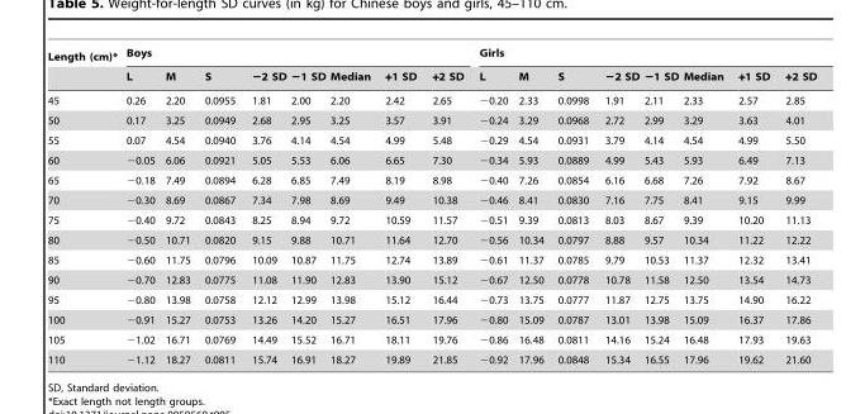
<table><thead><tr><td rowspan="2">Length (cm)*</td><td colspan="8">Boys</td><td colspan="8">Girls</td></tr><tr><td>L</td><td>M</td><td>S</td><td>−2 SD</td><td>−1 SD</td><td>Median</td><td>+1 SD</td><td>+2 SD</td><td>L</td><td>M</td><td>S</td><td>−2 SD</td><td>−1 SD</td><td>Median</td><td>+1 SD</td><td>+2 SD</td></tr></thead><tbody><tr><td>45</td><td>0.26</td><td>2.20</td><td>0.0955</td><td>1.81</td><td>2.00</td><td>2.20</td><td>2.42</td><td>2.65</td><td>−0.20</td><td>2.33</td><td>0.0998</td><td>1.91</td><td>2.11</td><td>2.33</td><td>2.57</td><td>2.85</td></tr><tr><td>50</td><td>0.17</td><td>3.25</td><td>0.0949</td><td>2.68</td><td>2.95</td><td>3.25</td><td>3.57</td><td>3.91</td><td>−0.24</td><td>3.29</td><td>0.0968</td><td>2.72</td><td>2.99</td><td>3.29</td><td>3.63</td><td>4.01</td></tr><tr><td>55</td><td>0.07</td><td>4.54</td><td>0.0940</td><td>3.76</td><td>4.14</td><td>4.54</td><td>4.99</td><td>5.48</td><td>−0.29</td><td>4.54</td><td>0.0931</td><td>3.79</td><td>4.14</td><td>4.54</td><td>4.99</td><td>5.50</td></tr><tr><td>60</td><td>−0.05</td><td>6.06</td><td>0.0921</td><td>5.05</td><td>5.53</td><td>6.06</td><td>6.65</td><td>7.30</td><td>−0.34</td><td>5.93</td><td>0.0889</td><td>4.99</td><td>5.43</td><td>5.93</td><td>6.49</td><td>7.13</td></tr><tr><td>65</td><td>−0.18</td><td>7.49</td><td>0.0894</td><td>6.28</td><td>6.85</td><td>7.49</td><td>8.19</td><td>8.98</td><td>−0.40</td><td>7.26</td><td>0.0854</td><td>6.16</td><td>6.68</td><td>7.26</td><td>7.92</td><td>8.67</td></tr><tr><td>70</td><td>−0.30</td><td>8.69</td><td>0.0867</td><td>7.34</td><td>7.98</td><td>8.69</td><td>9.49</td><td>10.38</td><td>−0.46</td><td>8.41</td><td>0.0830</td><td>7.16</td><td>7.75</td><td>8.41</td><td>9.15</td><td>9.99</td></tr><tr><td>75</td><td>−0.40</td><td>9.72</td><td>0.0843</td><td>8.25</td><td>8.94</td><td>9.72</td><td>10.59</td><td>11.57</td><td>−0.51</td><td>9.39</td><td>0.0813</td><td>8.03</td><td>8.67</td><td>9.39</td><td>10.20</td><td>11.13</td></tr><tr><td>80</td><td>−0.50</td><td>10.71</td><td>0.0820</td><td>9.15</td><td>9.88</td><td>10.71</td><td>11.64</td><td>12.70</td><td>−0.56</td><td>10.34</td><td>0.0797</td><td>8.88</td><td>9.57</td><td>10.34</td><td>11.22</td><td>12.22</td></tr><tr><td>85</td><td>−0.60</td><td>11.75</td><td>0.0796</td><td>10.09</td><td>10.87</td><td>11.75</td><td>12.74</td><td>13.89</td><td>−0.61</td><td>11.37</td><td>0.0785</td><td>9.79</td><td>10.53</td><td>11.37</td><td>12.32</td><td>13.41</td></tr><tr><td>90</td><td>−0.70</td><td>12.83</td><td>0.0775</td><td>11.08</td><td>11.90</td><td>12.83</td><td>13.90</td><td>15.12</td><td>−0.67</td><td>12.50</td><td>0.0778</td><td>10.78</td><td>11.58</td><td>12.50</td><td>13.54</td><td>14.73</td></tr><tr><td>95</td><td>−0.80</td><td>13.98</td><td>0.0758</td><td>12.12</td><td>12.99</td><td>13.98</td><td>15.12</td><td>16.44</td><td>−0.73</td><td>13.75</td><td>0.0777</td><td>11.87</td><td>12.75</td><td>13.75</td><td>14.90</td><td>16.22</td></tr><tr><td>100</td><td>−0.91</td><td>15.27</td><td>0.0753</td><td>13.26</td><td>14.20</td><td>15.27</td><td>16.51</td><td>17.96</td><td>−0.80</td><td>15.09</td><td>0.0787</td><td>13.01</td><td>13.98</td><td>15.09</td><td>16.37</td><td>17.86</td></tr><tr><td>105</td><td>−1.02</td><td>16.71</td><td>0.0769</td><td>14.49</td><td>15.52</td><td>16.71</td><td>18.11</td><td>19.76</td><td>−0.86</td><td>16.48</td><td>0.0811</td><td>14.16</td><td>15.24</td><td>16.48</td><td>17.93</td><td>19.63</td></tr><tr><td>110</td><td>−1.12</td><td>18.27</td><td>0.0811</td><td>15.74</td><td>16.91</td><td>18.27</td><td>19.89</td><td>21.85</td><td>−0.92</td><td>17.96</td><td>0.0848</td><td>15.34</td><td>16.55</td><td>17.96</td><td>19.62</td><td>21.60</td></tr></tbody></table>